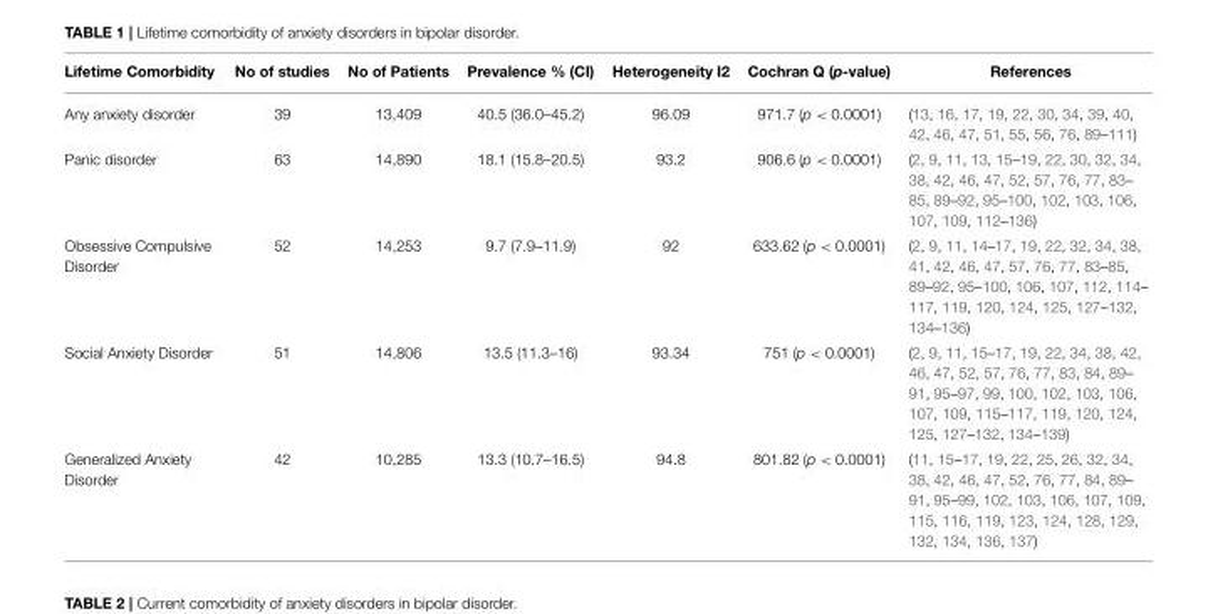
<table><thead><tr><td>Lifetime Comorbidity</td><td>No of studies</td><td>No of Patients</td><td>Prevalence % (CI)</td><td>Heterogeneity I2</td><td>Cochran Q (p-value)</td><td>References</td></tr></thead><tbody><tr><td>Any anxiety disorder</td><td>39</td><td>13,409</td><td>40.5 (36.0–45.2)</td><td>96.09</td><td>971.7 (p &lt; 0.0001)</td><td>(13, 16, 17, 19, 22, 30, 34, 39, 40, 42, 46, 47, 51, 55, 56, 76, 89–111)</td></tr><tr><td>Panic disorder</td><td>63</td><td>14,890</td><td>18.1 (15.8–20.5)</td><td>93.2</td><td>906.6 (p &lt; 0.0001)</td><td>(2, 9, 11, 13, 15–19, 22, 30, 32, 34, 38, 42, 46, 47, 52, 57, 76, 77, 83– 85, 89–92, 95–100, 102, 103, 106, 107, 109, 112–136)</td></tr><tr><td>Obsessive Compulsive Disorder</td><td>52</td><td>14,253</td><td>9.7 (7.9–11.9)</td><td>92</td><td>633.62 (p &lt; 0.0001)</td><td>(2, 9, 11, 14–17, 19, 22, 32, 34, 38, 41, 42, 46, 47, 57, 76, 77, 83–85, 89–92, 95–100, 106, 107, 112, 114– 117, 119, 120, 124, 125, 127–132, 134–136)</td></tr><tr><td>Social Anxiety Disorder</td><td>51</td><td>14,806</td><td>13.5 (11.3–16)</td><td>93.34</td><td>751 (p &lt; 0.0001)</td><td>(2, 9, 11, 15–17, 19, 22, 34, 38, 42, 46, 47, 52, 57, 76, 77, 83, 84, 89– 91, 95–97, 99, 100, 102, 103, 106, 107, 109, 115–117, 119, 120, 124, 125, 127–132, 134–139)</td></tr><tr><td>Generalized Anxiety Disorder</td><td>42</td><td>10,285</td><td>13.3 (10.7–16.5)</td><td>94.8</td><td>801.82 (p &lt; 0.0001)</td><td>(11, 15–17, 19, 22, 25, 26, 32, 34, 38, 42, 46, 47, 52, 76, 77, 84, 89– 91, 95–99, 102, 103, 106, 107, 109, 115, 116, 119, 123, 124, 128, 129, 132, 134, 136, 137)</td></tr></tbody></table>